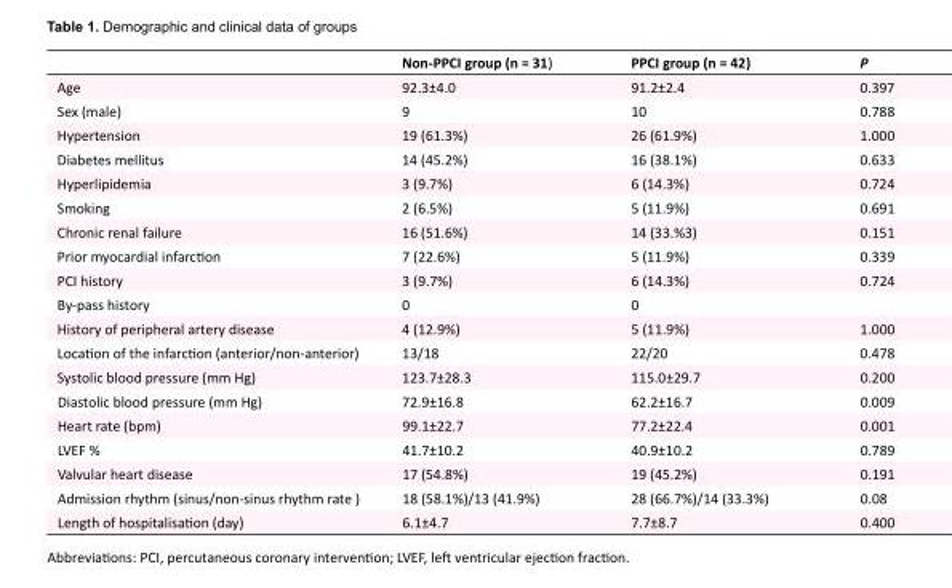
<table><thead><tr><td></td><td>Non-PPCI group (n = 31)</td><td>PPCI group (n = 42)</td><td>P</td></tr></thead><tbody><tr><td>Age</td><td>92.3±4.0</td><td>91.2±2.4</td><td>0.397</td></tr><tr><td>Sex (male)</td><td>9</td><td>10</td><td>0.788</td></tr><tr><td>Hypertension</td><td>19 (61.3%)</td><td>26 (61.9%)</td><td>1.000</td></tr><tr><td>Diabetes mellitus</td><td>14 (45.2%)</td><td>16 (38.1%)</td><td>0.633</td></tr><tr><td>Hyperlipidemia</td><td>3 (9.7%)</td><td>6 (14.3%)</td><td>0.724</td></tr><tr><td>Smoking</td><td>2 (6.5%)</td><td>5 (11.9%)</td><td>0.691</td></tr><tr><td>Chronic renal failure</td><td>16 (51.6%)</td><td>14 (33.%3)</td><td>0.151</td></tr><tr><td>Prior myocardial infarction</td><td>7 (22.6%)</td><td>5 (11.9%)</td><td>0.339</td></tr><tr><td>PCI history</td><td>3 (9.7%)</td><td>6 (14.3%)</td><td>0.724</td></tr><tr><td>By-pass history</td><td>0</td><td>0</td><td></td></tr><tr><td>History of peripheral artery disease</td><td>4 (12.9%)</td><td>5 (11.9%)</td><td>1.000</td></tr><tr><td>Location of the infarction (anterior/non-anterior)</td><td>13/18</td><td>22/20</td><td>0.478</td></tr><tr><td>Systolic blood pressure (mm Hg)</td><td>123.7±28.3</td><td>115.0±29.7</td><td>0.200</td></tr><tr><td>Diastolic blood pressure (mm Hg)</td><td>72.9±16.8</td><td>62.2±16.7</td><td>0.009</td></tr><tr><td>Heart rate (bpm)</td><td>99.1±22.7</td><td>77.2±22.4</td><td>0.001</td></tr><tr><td>LVEF %</td><td>41.7±10.2</td><td>40.9±10.2</td><td>0.789</td></tr><tr><td>Valvular heart disease</td><td>17 (54.8%)</td><td>19 (45.2%)</td><td>0.191</td></tr><tr><td>Admission rhythm (sinus/non-sinus rhythm rate )</td><td>18 (58.1%)/13 (41.9%)</td><td>28 (66.7%)/14 (33.3%)</td><td>0.08</td></tr><tr><td>Length of hospitalisation (day)</td><td>6.1±4.7</td><td>7.7±8.7</td><td>0.400</td></tr></tbody></table>